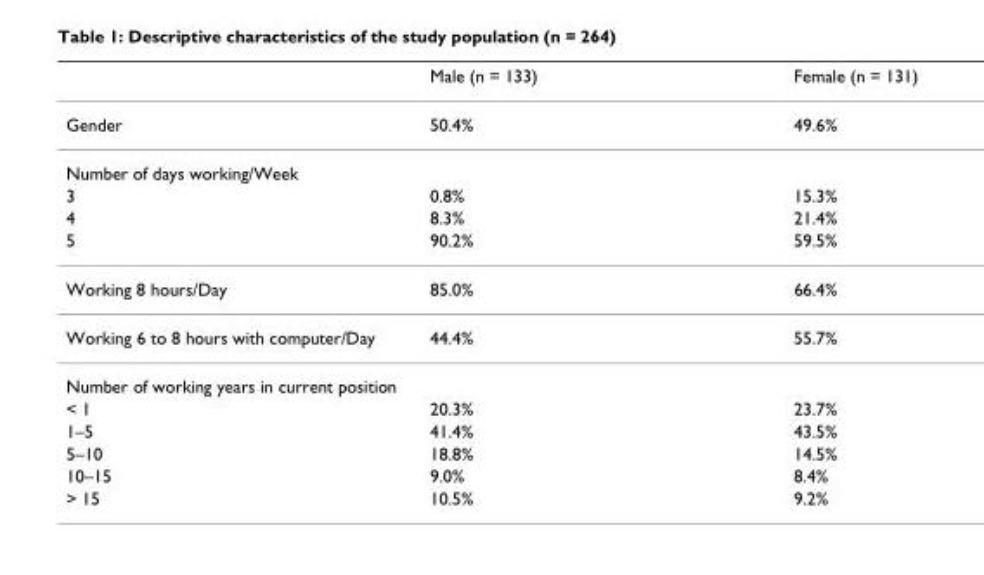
<table><thead><tr><td></td><td>Male (n = 133)</td><td>Female (n = 131)</td></tr></thead><tbody><tr><td>Gender</td><td>50.4%</td><td>49.6%</td></tr><tr><td colspan="3">Number of days working/Week</td></tr><tr><td>3</td><td>0.8%</td><td>15.3%</td></tr><tr><td>4</td><td>8.3%</td><td>21.4%</td></tr><tr><td>5</td><td>90.2%</td><td>59.5%</td></tr><tr><td>Working 8 hours/Day</td><td>85.0%</td><td>66.4%</td></tr><tr><td>Working 6 to 8 hours with computer/Day</td><td>44.4%</td><td>55.7%</td></tr><tr><td colspan="3">Number of working years in current position</td></tr><tr><td>&lt; 1</td><td>20.3%</td><td>23.7%</td></tr><tr><td>1–5</td><td>41.4%</td><td>43.5%</td></tr><tr><td>5–10</td><td>18.8%</td><td>14.5%</td></tr><tr><td>10–15</td><td>9.0%</td><td>8.4%</td></tr><tr><td>&gt; 15</td><td>10.5%</td><td>9.2%</td></tr></tbody></table>